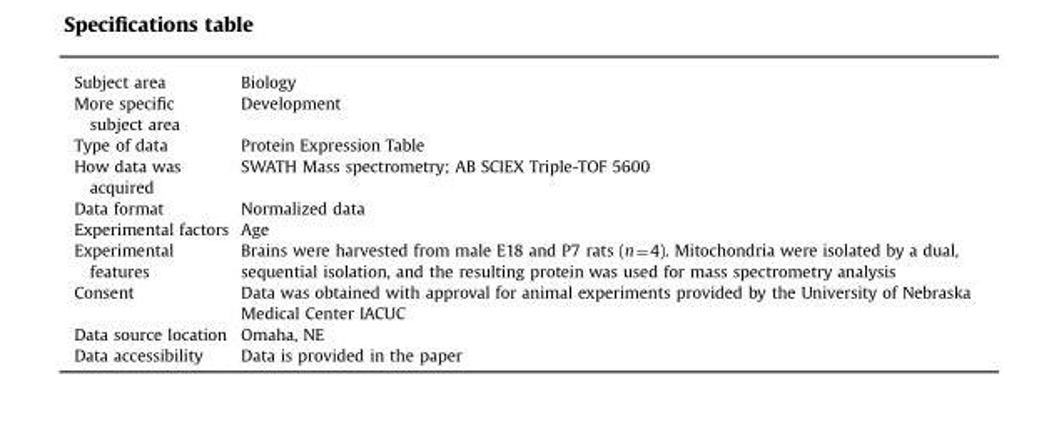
<table><tbody><tr><td>Subject area</td><td>Biology</td></tr><tr><td>More specific subject area</td><td>Development</td></tr><tr><td>Type of data</td><td>Protein Expression Table</td></tr><tr><td>How data was acquired</td><td>SWATH Mass spectrometry; AB SCIEX Triple-TOF 5600</td></tr><tr><td>Data format</td><td>Normalized data</td></tr><tr><td>Experimental factors</td><td>Age</td></tr><tr><td>Experimental features</td><td>Brains were harvested from male E18 and P7 rats (n=4). Mitochondria were isolated by a dual, sequential isolation, and the resulting protein was used for mass spectrometry analysis</td></tr><tr><td>Consent</td><td>Data was obtained with approval for animal experiments provided by the University of Nebraska Medical Center IACUC</td></tr><tr><td>Data source location</td><td>Omaha, NE</td></tr><tr><td>Data accessibility</td><td>Data is provided in the paper</td></tr></tbody></table>